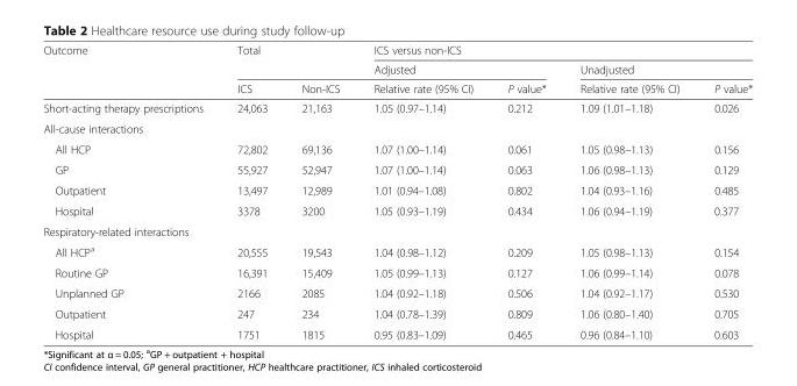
<table><thead><tr><td rowspan="3">Outcome</td><td rowspan="2" colspan="2">Total</td><td colspan="4">ICS versus non-ICS</td></tr><tr><td colspan="2">Adjusted</td><td colspan="2">Unadjusted</td></tr><tr><td>ICS</td><td>Non-ICS</td><td>Relative rate (95% CI)</td><td>P value*</td><td>Relative rate (95% CI)</td><td>P value*</td></tr></thead><tbody><tr><td>Short-acting therapy prescriptions</td><td>24,063</td><td>21,163</td><td>1.05 (0.97–1.14)</td><td>0.212</td><td>1.09 (1.01–1.18)</td><td>0.026</td></tr><tr><td colspan="7">All-cause interactions</td></tr><tr><td>All HCP</td><td>72,802</td><td>69,136</td><td>1.07 (1.00–1.14)</td><td>0.061</td><td>1.05 (0.98–1.13)</td><td>0.156</td></tr><tr><td>GP</td><td>55,927</td><td>52,947</td><td>1.07 (1.00–1.14)</td><td>0.063</td><td>1.06 (0.98–1.13)</td><td>0.129</td></tr><tr><td>Outpatient</td><td>13,497</td><td>12,989</td><td>1.01 (0.94–1.08)</td><td>0.802</td><td>1.04 (0.93–1.16)</td><td>0.485</td></tr><tr><td>Hospital</td><td>3378</td><td>3200</td><td>1.05 (0.93–1.19)</td><td>0.434</td><td>1.06 (0.94–1.19)</td><td>0.377</td></tr><tr><td colspan="7">Respiratory-related interactions</td></tr><tr><td>All HCP<sup>a</sup></td><td>20,555</td><td>19,543</td><td>1.04 (0.98–1.12)</td><td>0.209</td><td>1.05 (0.98–1.13)</td><td>0.154</td></tr><tr><td>Routine GP</td><td>16,391</td><td>15,409</td><td>1.05 (0.99–1.13)</td><td>0.127</td><td>1.06 (0.99–1.14)</td><td>0.078</td></tr><tr><td>Unplanned GP</td><td>2166</td><td>2085</td><td>1.04 (0.92–1.18)</td><td>0.506</td><td>1.04 (0.92–1.17)</td><td>0.530</td></tr><tr><td>Outpatient</td><td>247</td><td>234</td><td>1.04 (0.78–1.39)</td><td>0.809</td><td>1.06 (0.80–1.40)</td><td>0.705</td></tr><tr><td>Hospital</td><td>1751</td><td>1815</td><td>0.95 (0.83–1.09)</td><td>0.465</td><td>0.96 (0.84–1.10)</td><td>0.603</td></tr></tbody></table>